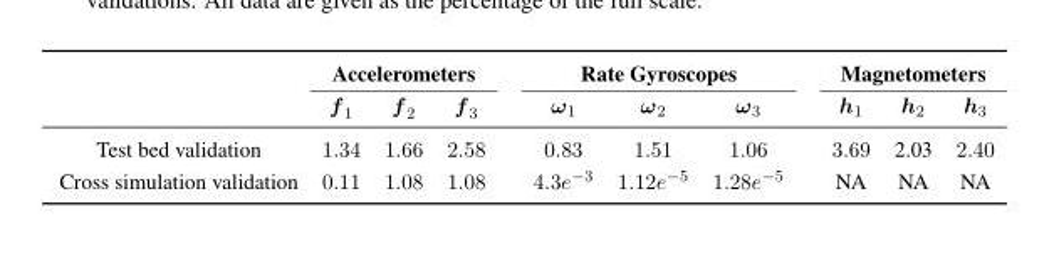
<table><thead><tr><td rowspan="2"></td><td colspan="3">Accelerometers</td><td colspan="3">Rate Gyroscopes</td><td colspan="3">Magnetometers</td></tr><tr><td>f <sub>1</sub></td><td>f <sub>2</sub></td><td>f <sub>3</sub></td><td>ω<sub>1</sub></td><td>ω<sub>2</sub></td><td>ω<sub>3</sub></td><td>h<sub>1</sub></td><td>h<sub>2</sub></td><td>h<sub>3</sub></td></tr></thead><tbody><tr><td>Test bed validation</td><td>1.34</td><td>1.66</td><td>2.58</td><td>0.83</td><td>1.51</td><td>1.06</td><td>3.69</td><td>2.03</td><td>2.40</td></tr><tr><td>Cross simulation validation</td><td>0.11</td><td>1.08</td><td>1.08</td><td>4.3e<sup>−3</sup></td><td>1.12e<sup>−5</sup></td><td>1.28e<sup>−5</sup></td><td>NA</td><td>NA</td><td>NA</td></tr></tbody></table>